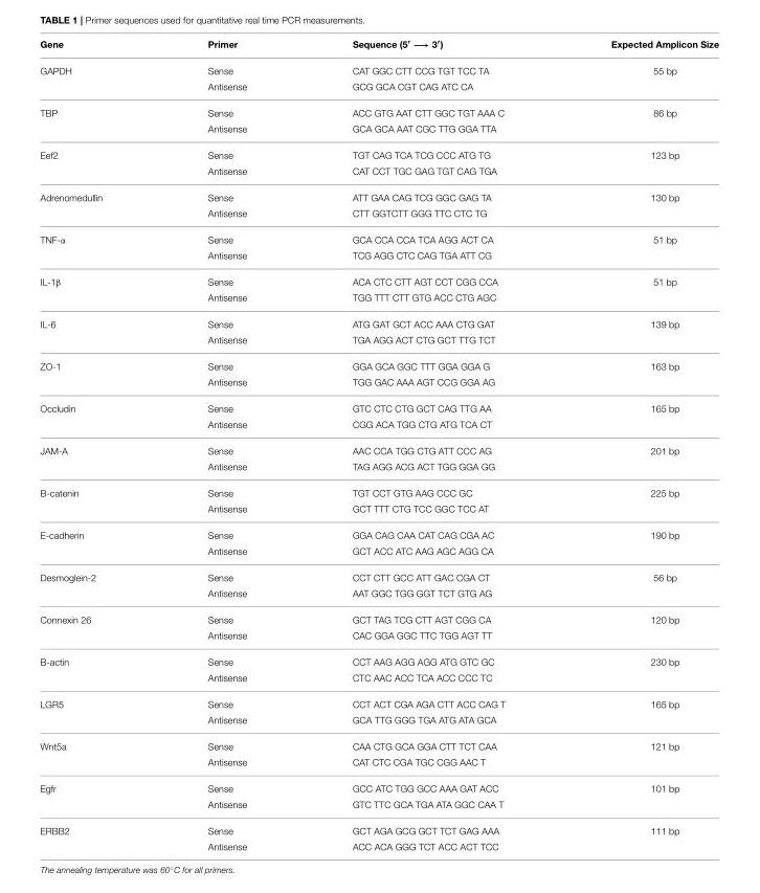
<table><thead><tr><td>Gene</td><td>Primer</td><td>Sequence (5′ −→ 3′)</td><td>Expected Amplicon Size</td></tr></thead><tbody><tr><td rowspan="2">GAPDH</td><td>Sense</td><td>CAT GGC CTT CCG TGT TCC TA</td><td>55 bp</td></tr><tr><td>Antisense</td><td>GCG GCA CGT CAG ATC CA</td><td></td></tr><tr><td rowspan="2">TBP</td><td>Sense</td><td>ACC GTG AAT CTT GGC TGT AAA C</td><td>86 bp</td></tr><tr><td>Antisense</td><td>GCA GCA AAT CGC TTG GGA TTA</td><td></td></tr><tr><td rowspan="2">Eef2</td><td>Sense</td><td>TGT CAG TCA TCG CCC ATG TG</td><td>123 bp</td></tr><tr><td>Antisense</td><td>CAT CCT TGC GAG TGT CAG TGA</td><td></td></tr><tr><td rowspan="2">Adrenomedullin</td><td>Sense</td><td>ATT GAA CAG TCG GGC GAG TA</td><td>130 bp</td></tr><tr><td>Antisense</td><td>CTT GGTCTT GGG TTC CTC TG</td><td></td></tr><tr><td rowspan="2">TNF-α</td><td>Sense</td><td>GCA CCA CCA TCA AGG ACT CA</td><td>51 bp</td></tr><tr><td>Antisense</td><td>TCG AGG CTC CAG TGA ATT CG</td><td></td></tr><tr><td rowspan="2">IL-1β</td><td>Sense</td><td>ACA CTC CTT AGT CCT CGG CCA</td><td>51 bp</td></tr><tr><td>Antisense</td><td>TGG TTT CTT GTG ACC CTG AGC</td><td></td></tr><tr><td rowspan="2">IL-6</td><td>Sense</td><td>ATG GAT GCT ACC AAA CTG GAT</td><td>139 bp</td></tr><tr><td>Antisense</td><td>TGA AGG ACT CTG GCT TTG TCT</td><td></td></tr><tr><td rowspan="2">ZO-1</td><td>Sense</td><td>GGA GCA GGC TTT GGA GGA G</td><td>163 bp</td></tr><tr><td>Antisense</td><td>TGG GAC AAA AGT CCG GGA AG</td><td></td></tr><tr><td rowspan="2">Occludin</td><td>Sense</td><td>GTC CTC CTG GCT CAG TTG AA</td><td>165 bp</td></tr><tr><td>Antisense</td><td>CGG ACA TGG CTG ATG TCA CT</td><td></td></tr><tr><td rowspan="2">JAM-A</td><td>Sense</td><td>AAC CCA TGG CTG ATT CCC AG</td><td>201 bp</td></tr><tr><td>Antisense</td><td>TAG AGG ACG ACT TGG GGA GG</td><td></td></tr><tr><td rowspan="2">B-catenin</td><td>Sense</td><td>TGT CCT GTG AAG CCC GC</td><td>225 bp</td></tr><tr><td>Antisense</td><td>GCT TTT CTG TCC GGC TCC AT</td><td></td></tr><tr><td rowspan="2">E-cadherin</td><td>Sense</td><td>GGA CAG CAA CAT CAG CGA AC</td><td>190 bp</td></tr><tr><td>Antisense</td><td>GCT ACC ATC AAG AGC AGG CA</td><td></td></tr><tr><td rowspan="2">Desmoglein-2</td><td>Sense</td><td>CCT CTT GCC ATT GAC CGA CT</td><td>56 bp</td></tr><tr><td>Antisense</td><td>AAT GGC TGG GGT TCT GTG AG</td><td></td></tr><tr><td rowspan="2">Connexin 26</td><td>Sense</td><td>GCT TAG TCG CTT AGT CGG CA</td><td>120 bp</td></tr><tr><td>Antisense</td><td>CAC GGA GGC TTC TGG AGT TT</td><td></td></tr><tr><td rowspan="2">B-actin</td><td>Sense</td><td>CCT AAG AGG AGG ATG GTC GC</td><td>230 bp</td></tr><tr><td>Antisense</td><td>CTC AAC ACC TCA ACC CCC TC</td><td></td></tr><tr><td rowspan="2">LGR5</td><td>Sense</td><td>CCT ACT CGA AGA CTT ACC CAG T</td><td>165 bp</td></tr><tr><td>Antisense</td><td>GCA TTG GGG TGA ATG ATA GCA</td><td></td></tr><tr><td rowspan="2">Wnt5a</td><td>Sense</td><td>CAA CTG GCA GGA CTT TCT CAA</td><td>121 bp</td></tr><tr><td>Antisense</td><td>CAT CTC CGA TGC CGG AAC T</td><td></td></tr><tr><td rowspan="2">Egfr</td><td>Sense</td><td>GCC ATC TGG GCC AAA GAT ACC</td><td>101 bp</td></tr><tr><td>Antisense</td><td>GTC TTC GCA TGA ATA GGC CAA T</td><td></td></tr><tr><td rowspan="2">ERBB2</td><td>Sense</td><td>GCT AGA GCG GCT TCT GAG AAA</td><td>111 bp</td></tr><tr><td>Antisense</td><td>ACC ACA GGG TCT ACC ACT TCC</td><td></td></tr></tbody></table>